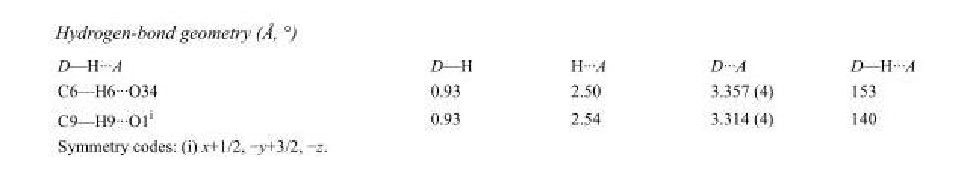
<table><tbody><tr><td>D—H···A</td><td>D—H</td><td>H···A</td><td>D···A</td><td>D—H···A</td></tr><tr><td>C6—H6···O34</td><td>0.93</td><td>2.50</td><td>3.357 (4)</td><td>153</td></tr><tr><td>C9—H9···O1<sup>i</sup></td><td>0.93</td><td>2.54</td><td>3.314 (4)</td><td>140</td></tr></tbody></table>